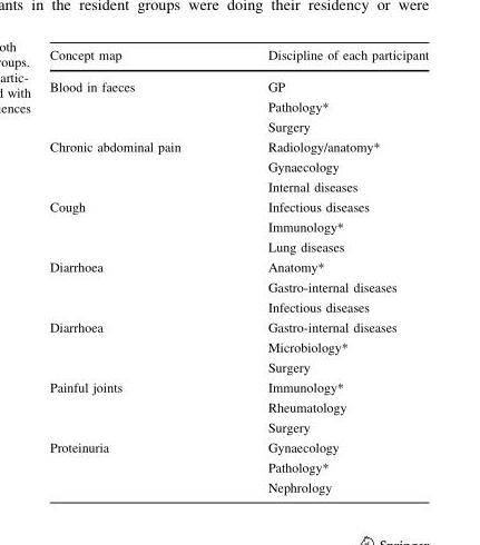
<table><thead><tr><td>Concept map</td><td>Discipline of each participant</td></tr></thead><tbody><tr><td rowspan="3">Blood in faeces</td><td>GP</td></tr><tr><td>Pathology*</td></tr><tr><td>Surgery</td></tr><tr><td rowspan="3">Chronic abdominal pain</td><td>Radiology/anatomy*</td></tr><tr><td>Gynaecology</td></tr><tr><td>Internal diseases</td></tr><tr><td rowspan="3">Cough</td><td>Infectious diseases</td></tr><tr><td>Immunology*</td></tr><tr><td>Lung diseases</td></tr><tr><td rowspan="3">Diarrhoea</td><td>Anatomy*</td></tr><tr><td>Gastro-internal diseases</td></tr><tr><td>Infectious diseases</td></tr><tr><td rowspan="3">Diarrhoea</td><td>Gastro-internal diseases</td></tr><tr><td>Microbiology*</td></tr><tr><td>Surgery</td></tr><tr><td rowspan="3">Painful joints</td><td>Immunology*</td></tr><tr><td>Rheumatology</td></tr><tr><td>Surgery</td></tr><tr><td rowspan="3">Proteinuria</td><td>Gynaecology</td></tr><tr><td>Pathology*</td></tr><tr><td>Nephrology</td></tr></tbody></table>